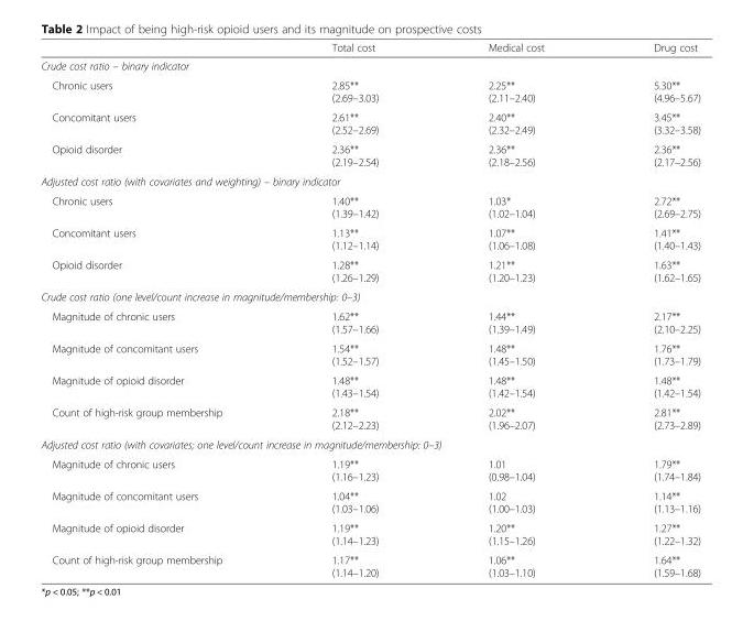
<table><thead><tr><td></td><td>Total cost</td><td>Medical cost</td><td>Drug cost</td></tr></thead><tbody><tr><td colspan="4">Crude cost ratio – binary indicator</td></tr><tr><td>Chronic users</td><td>2.85** (2.69–3.03)</td><td>2.25** (2.11–2.40)</td><td>5.30** (4.96–5.67)</td></tr><tr><td>Concomitant users</td><td>2.61** (2.52–2.69)</td><td>2.40** (2.32–2.49)</td><td>3.45** (3.32–3.58)</td></tr><tr><td>Opioid disorder</td><td>2.36** (2.19–2.54)</td><td>2.36** (2.18–2.56)</td><td>2.36** (2.17–2.56)</td></tr><tr><td colspan="4">Adjusted cost ratio (with covariates and weighting) – binary indicator</td></tr><tr><td>Chronic users</td><td>1.40** (1.39–1.42)</td><td>1.03* (1.02–1.04)</td><td>2.72** (2.69–2.75)</td></tr><tr><td>Concomitant users</td><td>1.13** (1.12–1.14)</td><td>1.07** (1.06–1.08)</td><td>1.41** (1.40–1.43)</td></tr><tr><td>Opioid disorder</td><td>1.28** (1.26–1.29)</td><td>1.21** (1.20–1.23)</td><td>1.63** (1.62–1.65)</td></tr><tr><td colspan="4">Crude cost ratio (one level/count increase in magnitude/membership: 0–3)</td></tr><tr><td>Magnitude of chronic users</td><td>1.62** (1.57–1.66)</td><td>1.44** (1.39–1.49)</td><td>2.17** (2.10–2.25)</td></tr><tr><td>Magnitude of concomitant users</td><td>1.54** (1.52–1.57)</td><td>1.48** (1.45–1.50)</td><td>1.76** (1.73–1.79)</td></tr><tr><td>Magnitude of opioid disorder</td><td>1.48** (1.43–1.54)</td><td>1.48** (1.42–1.54)</td><td>1.48** (1.42–1.54)</td></tr><tr><td>Count of high-risk group membership</td><td>2.18** (2.12–2.23)</td><td>2.02** (1.96–2.07)</td><td>2.81** (2.73–2.89)</td></tr><tr><td colspan="4">Adjusted cost ratio (with covariates; one level/count increase in magnitude/membership: 0–3)</td></tr><tr><td>Magnitude of chronic users</td><td>1.19** (1.16–1.23)</td><td>1.01 (0.98–1.04)</td><td>1.79** (1.74–1.84)</td></tr><tr><td>Magnitude of concomitant users</td><td>1.04** (1.03–1.06)</td><td>1.02 (1.00–1.03)</td><td>1.14** (1.13–1.16)</td></tr><tr><td>Magnitude of opioid disorder</td><td>1.19** (1.14–1.23)</td><td>1.20** (1.15–1.26)</td><td>1.27** (1.22–1.32)</td></tr><tr><td>Count of high-risk group membership</td><td>1.17** (1.14–1.20)</td><td>1.06** (1.03–1.10)</td><td>1.64** (1.59–1.68)</td></tr></tbody></table>